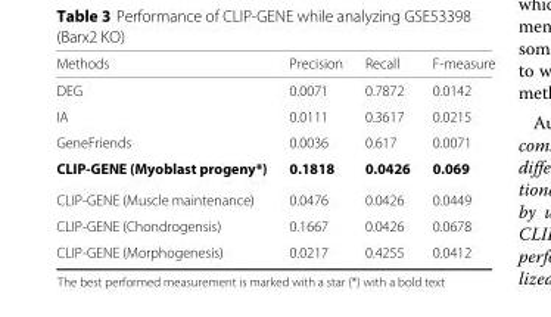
<table><thead><tr><td>Methods</td><td>Precision</td><td>Recall</td><td>F-measure</td></tr></thead><tbody><tr><td>DEG</td><td>0.0071</td><td>0.7872</td><td>0.0142</td></tr><tr><td>IA</td><td>0.0111</td><td>0.3617</td><td>0.0215</td></tr><tr><td>GeneFriends</td><td>0.0036</td><td>0.617</td><td>0.0071</td></tr><tr><td>CLIP-GENE (Myoblast progeny*)</td><td>0.1818</td><td>0.0426</td><td>0.069</td></tr><tr><td>CLIP-GENE (Muscle maintenance)</td><td>0.0476</td><td>0.0426</td><td>0.0449</td></tr><tr><td>CLIP-GENE (Chondrogensis)</td><td>0.1667</td><td>0.0426</td><td>0.0678</td></tr><tr><td>CLIP-GENE (Morphogenesis)</td><td>0.0217</td><td>0.4255</td><td>0.0412</td></tr></tbody></table>